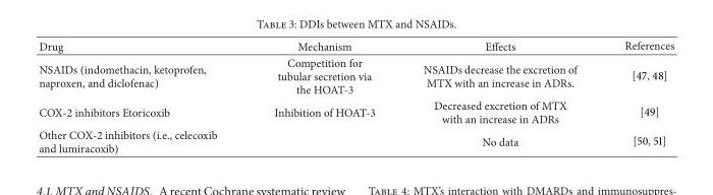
<table><thead><tr><td>Drug</td><td>Mechanism</td><td>Effects</td><td>References</td></tr></thead><tbody><tr><td>NSAIDs (indomethacin, ketoprofen, naproxen, and diclofenac)</td><td>Competition for tubular secretion via the HOAT-3</td><td>NSAIDs decrease the excretion of MTX with an increase in ADRs.</td><td>[47, 48]</td></tr><tr><td>COX-2 inhibitors Etoricoxib</td><td>Inhibition of HOAT-3</td><td>Decreased excretion of MTX with an increase in ADRs</td><td>[49]</td></tr><tr><td>Other COX-2 inhibitors (i.e., celecoxib and lumiracoxib)</td><td></td><td>No data</td><td>[50, 51]</td></tr></tbody></table>